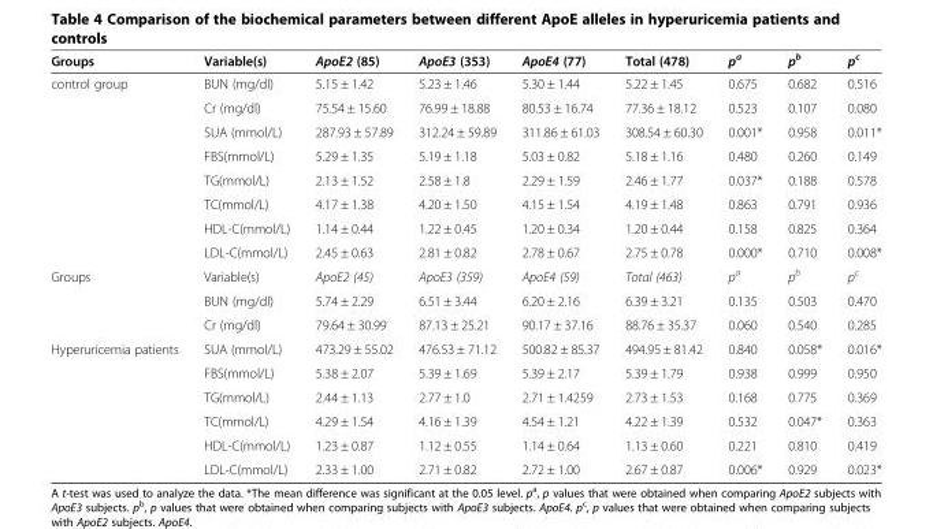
<table><thead><tr><td>Groups</td><td>Variable(s)</td><td>ApoE2 (85)</td><td>ApoE3 (353)</td><td>ApoE4 (77)</td><td>Total (478)</td><td>p<sup>a</sup></td><td>p<sup>b</sup></td><td>p<sup>c</sup></td></tr></thead><tbody><tr><td rowspan="8">control group</td><td>BUN (mg/dl)</td><td>5.15 ± 1.42</td><td>5.23 ± 1.46</td><td>5.30 ± 1.44</td><td>5.22 ± 1.45</td><td>0.675</td><td>0.682</td><td>0.516</td></tr><tr><td>Cr (mg/dl)</td><td>75.54 ± 15.60</td><td>76.99 ± 18.88</td><td>80.53 ± 16.74</td><td>77.36 ± 18.12</td><td>0.523</td><td>0.107</td><td>0.080</td></tr><tr><td>SUA (mmol/L)</td><td>287.93 ± 57.89</td><td>312.24 ± 59.89</td><td>311.86 ± 61.03</td><td>308.54 ± 60.30</td><td>0.001*</td><td>0.958</td><td>0.011*</td></tr><tr><td>FBS(mmol/L)</td><td>5.29 ± 1.35</td><td>5.19 ± 1.18</td><td>5.03 ± 0.82</td><td>5.18 ± 1.16</td><td>0.480</td><td>0.260</td><td>0.149</td></tr><tr><td>TG(mmol/L)</td><td>2.13 ± 1.52</td><td>2.58 ± 1.8</td><td>2.29 ± 1.59</td><td>2.46 ± 1.77</td><td>0.037*</td><td>0.188</td><td>0.578</td></tr><tr><td>TC(mmol/L)</td><td>4.17 ± 1.38</td><td>4.20 ± 1.50</td><td>4.15 ± 1.54</td><td>4.19 ± 1.48</td><td>0.863</td><td>0.791</td><td>0.936</td></tr><tr><td>HDL-C(mmol/L)</td><td>1.14 ± 0.44</td><td>1.22 ± 0.45</td><td>1.20 ± 0.34</td><td>1.20 ± 0.44</td><td>0.158</td><td>0.825</td><td>0.364</td></tr><tr><td>LDL-C(mmol/L)</td><td>2.45 ± 0.63</td><td>2.81 ± 0.82</td><td>2.78 ± 0.67</td><td>2.75 ± 0.78</td><td>0.000*</td><td>0.710</td><td>0.008*</td></tr><tr><td rowspan="3">Groups</td><td>Variable(s)</td><td>ApoE2 (45)</td><td>ApoE3 (359)</td><td>ApoE4 (59)</td><td>Total (463)</td><td>p<sup>a</sup></td><td>p<sup>b</sup></td><td>p<sup>c</sup></td></tr><tr><td>BUN (mg/dl)</td><td>5.74 ± 2.29</td><td>6.51 ± 3.44</td><td>6.20 ± 2.16</td><td>6.39 ± 3.21</td><td>0.135</td><td>0.503</td><td>0.470</td></tr><tr><td>Cr (mg/dl)</td><td>79.64 ± 30.99</td><td>87.13 ± 25.21</td><td>90.17 ± 37.16</td><td>88.76 ± 35.37</td><td>0.060</td><td>0.540</td><td>0.285</td></tr><tr><td rowspan="6">Hyperuricemia patients</td><td>SUA (mmol/L)</td><td>473.29 ± 55.02</td><td>476.53 ± 71.12</td><td>500.82 ± 85.37</td><td>494.95 ± 81.42</td><td>0.840</td><td>0.058*</td><td>0.016*</td></tr><tr><td>FBS(mmol/L)</td><td>5.38 ± 2.07</td><td>5.39 ± 1.69</td><td>5.39 ± 2.17</td><td>5.39 ± 1.79</td><td>0.938</td><td>0.999</td><td>0.950</td></tr><tr><td>TG(mmol/L)</td><td>2.44 ± 1.13</td><td>2.77 ± 1.0</td><td>2.71 ± 1.4259</td><td>2.73 ± 1.53</td><td>0.168</td><td>0.775</td><td>0.369</td></tr><tr><td>TC(mmol/L)</td><td>4.29 ± 1.54</td><td>4.16 ± 1.39</td><td>4.54 ± 1.21</td><td>4.22 ± 1.39</td><td>0.532</td><td>0.047*</td><td>0.363</td></tr><tr><td>HDL-C(mmol/L)</td><td>1.23 ± 0.87</td><td>1.12 ± 0.55</td><td>1.14 ± 0.64</td><td>1.13 ± 0.60</td><td>0.221</td><td>0.810</td><td>0.419</td></tr><tr><td>LDL-C(mmol/L)</td><td>2.33 ± 1.00</td><td>2.71 ± 0.82</td><td>2.72 ± 1.00</td><td>2.67 ± 0.87</td><td>0.006*</td><td>0.929</td><td>0.023*</td></tr></tbody></table>